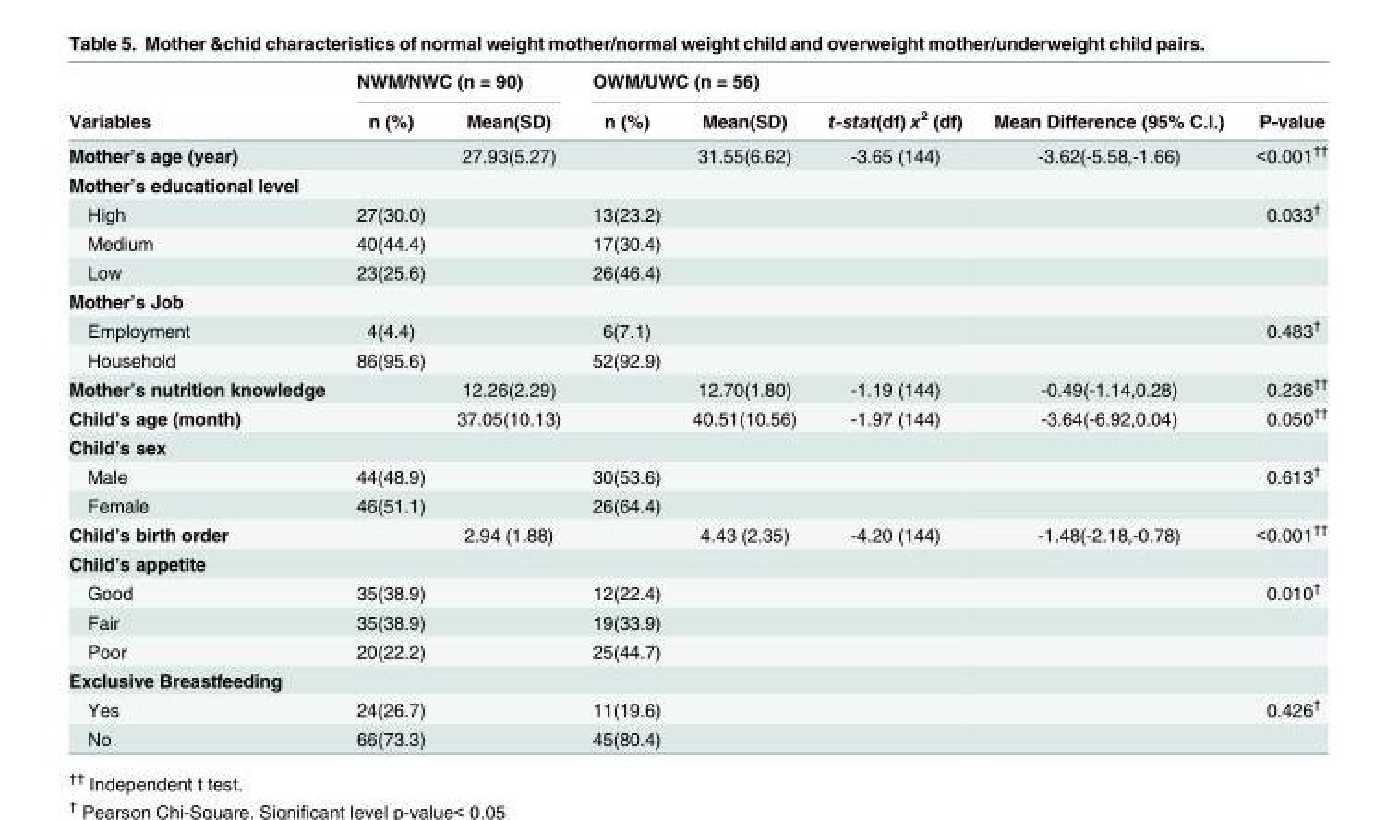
<table><thead><tr><td rowspan="2">Variables</td><td colspan="2">NWM/NWC (n = 90)</td><td colspan="5">OWM/UWC (n = 56)</td></tr><tr><td>n (%)</td><td>Mean(SD)</td><td>n (%)</td><td>Mean(SD)</td><td>t-stat(df) x<sup>2</sup> (df)</td><td>Mean Difference (95% C.I.)</td><td>P-value</td></tr></thead><tbody><tr><td>Mother’s age (year)</td><td></td><td>27.93(5.27)</td><td></td><td>31.55(6.62)</td><td>-3.65 (144)</td><td>-3.62(-5.58,-1.66)</td><td>&lt;0.001<sup>††</sup></td></tr><tr><td colspan="8">Mother’s educational level</td></tr><tr><td>High</td><td>27(30.0)</td><td></td><td>13(23.2)</td><td></td><td></td><td></td><td>0.033<sup>†</sup></td></tr><tr><td>Medium</td><td>40(44.4)</td><td></td><td>17(30.4)</td><td></td><td></td><td></td><td></td></tr><tr><td>Low</td><td>23(25.6)</td><td></td><td>26(46.4)</td><td></td><td></td><td></td><td></td></tr><tr><td colspan="8">Mother’s Job</td></tr><tr><td>Employment</td><td>4(4.4)</td><td></td><td>6(7.1)</td><td></td><td></td><td></td><td>0.483<sup>†</sup></td></tr><tr><td>Household</td><td>86(95.6)</td><td></td><td>52(92.9)</td><td></td><td></td><td></td><td></td></tr><tr><td>Mother’s nutrition knowledge</td><td></td><td>12.26(2.29)</td><td></td><td>12.70(1.80)</td><td>-1.19 (144)</td><td>-0.49(-1.14,0.28)</td><td>0.236<sup>††</sup></td></tr><tr><td>Child’s age (month)</td><td></td><td>37.05(10.13)</td><td></td><td>40.51(10.56)</td><td>-1.97 (144)</td><td>-3.64(-6.92,0.04)</td><td>0.050<sup>††</sup></td></tr><tr><td colspan="8">Child’s sex</td></tr><tr><td>Male</td><td>44(48.9)</td><td></td><td>30(53.6)</td><td></td><td></td><td></td><td>0.613<sup>†</sup></td></tr><tr><td>Female</td><td>46(51.1)</td><td></td><td>26(64.4)</td><td></td><td></td><td></td><td></td></tr><tr><td>Child’s birth order</td><td></td><td>2.94 (1.88)</td><td></td><td>4.43 (2.35)</td><td>-4.20 (144)</td><td>-1.48(-2.18,-0.78)</td><td>&lt;0.001<sup>††</sup></td></tr><tr><td colspan="8">Child’s appetite</td></tr><tr><td>Good</td><td>35(38.9)</td><td></td><td>12(22.4)</td><td></td><td></td><td></td><td>0.010<sup>†</sup></td></tr><tr><td>Fair</td><td>35(38.9)</td><td></td><td>19(33.9)</td><td></td><td></td><td></td><td></td></tr><tr><td>Poor</td><td>20(22.2)</td><td></td><td>25(44.7)</td><td></td><td></td><td></td><td></td></tr><tr><td colspan="8">Exclusive Breastfeeding</td></tr><tr><td>Yes</td><td>24(26.7)</td><td></td><td>11(19.6)</td><td></td><td></td><td></td><td>0.426<sup>†</sup></td></tr><tr><td>No</td><td>66(73.3)</td><td></td><td>45(80.4)</td><td></td><td></td><td></td><td></td></tr></tbody></table>